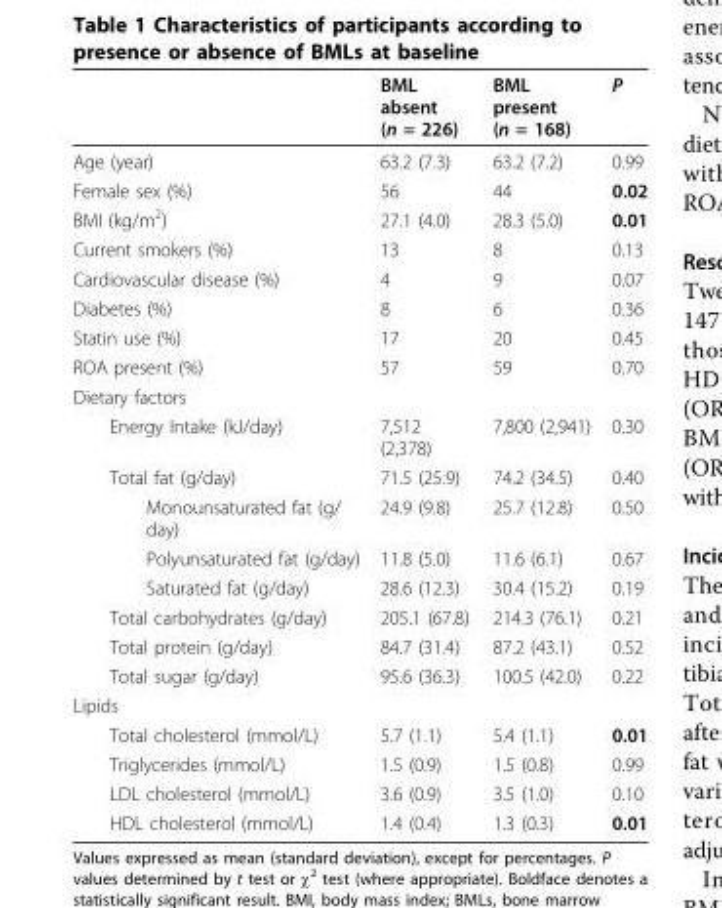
<table><thead><tr><td></td><td>BML absent (n = 226)</td><td>BML present (n = 168)</td><td>P</td></tr></thead><tbody><tr><td>Age (year)</td><td>63.2 (7.3)</td><td>63.2 (7.2)</td><td>0.99</td></tr><tr><td>Female sex (%)</td><td>56</td><td>44</td><td>0.02</td></tr><tr><td>BMI (kg/m<sup>2</sup>)</td><td>27.1 (4.0)</td><td>28.3 (5.0)</td><td>0.01</td></tr><tr><td>Current smokers (%)</td><td>13</td><td>8</td><td>0.13</td></tr><tr><td>Cardiovascular disease (%)</td><td>4</td><td>9</td><td>0.07</td></tr><tr><td>Diabetes (%)</td><td>8</td><td>6</td><td>0.36</td></tr><tr><td>Statin use (%)</td><td>17</td><td>20</td><td>0.45</td></tr><tr><td>ROA present (%)</td><td>57</td><td>59</td><td>0.70</td></tr><tr><td colspan="4">Dietary factors</td></tr><tr><td>Energy Intake (kJ/day)</td><td>7,512 (2,378)</td><td>7,800 (2,941)</td><td>0.30</td></tr><tr><td>Total fat (g/day)</td><td>71.5 (25.9)</td><td>74.2 (34.5)</td><td>0.40</td></tr><tr><td>Monounsaturated fat (g/ day)</td><td>24.9 (9.8)</td><td>25.7 (12.8)</td><td>0.50</td></tr><tr><td>Polyunsaturated fat (g/day)</td><td>11.8 (5.0)</td><td>11.6 (6.1)</td><td>0.67</td></tr><tr><td>Saturated fat (g/day)</td><td>28.6 (12.3)</td><td>30.4 (15.2)</td><td>0.19</td></tr><tr><td>Total carbohydrates (g/day)</td><td>205.1 (67.8)</td><td>214.3 (76.1)</td><td>0.21</td></tr><tr><td>Total protein (g/day)</td><td>84.7 (31.4)</td><td>87.2 (43.1)</td><td>0.52</td></tr><tr><td>Total sugar (g/day)</td><td>95.6 (36.3)</td><td>100.5 (42.0)</td><td>0.22</td></tr><tr><td colspan="4">Lipids</td></tr><tr><td>Total cholesterol (mmol/L)</td><td>5.7 (1.1)</td><td>5.4 (1.1)</td><td>0.01</td></tr><tr><td>Triglycerides (mmol/L)</td><td>1.5 (0.9)</td><td>1.5 (0.8)</td><td>0.99</td></tr><tr><td>LDL cholesterol (mmol/L)</td><td>3.6 (0.9)</td><td>3.5 (1.0)</td><td>0.10</td></tr><tr><td>HDL cholesterol (mmol/L)</td><td>1.4 (0.4)</td><td>1.3 (0.3)</td><td>0.01</td></tr></tbody></table>